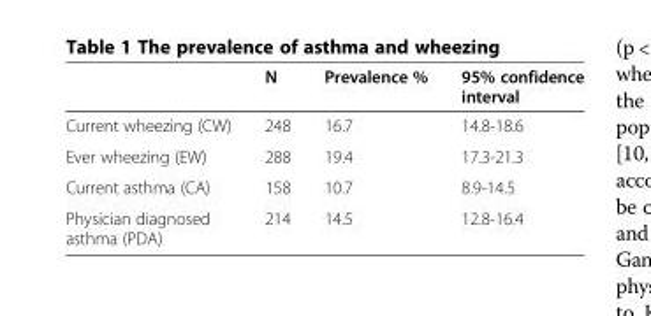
<table><thead><tr><td></td><td>N</td><td>Prevalence %</td><td>95% confidence interval</td></tr></thead><tbody><tr><td>Current wheezing (CW)</td><td>248</td><td>16.7</td><td>14.8-18.6</td></tr><tr><td>Ever wheezing (EW)</td><td>288</td><td>19.4</td><td>17.3-21.3</td></tr><tr><td>Current asthma (CA)</td><td>158</td><td>10.7</td><td>8.9-14.5</td></tr><tr><td>Physician diagnosed asthma (PDA)</td><td>214</td><td>14.5</td><td>12.8-16.4</td></tr></tbody></table>